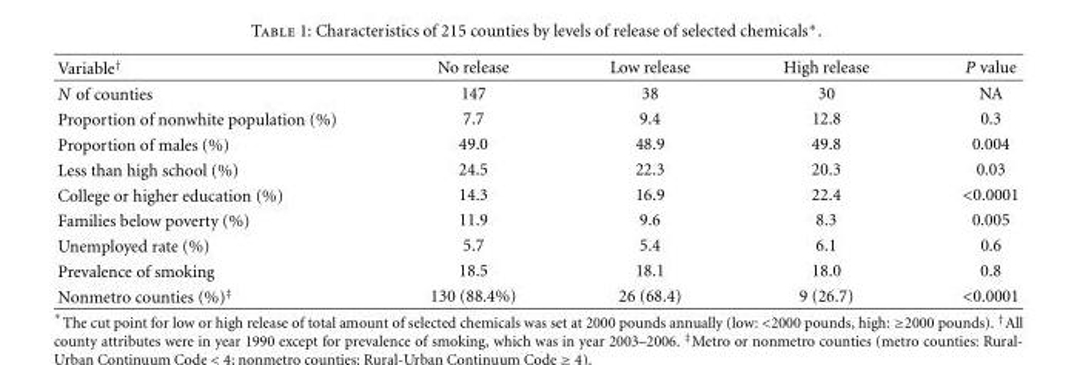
<table><thead><tr><td>Variable<sup>†</sup></td><td>No release</td><td>Low release</td><td>High release</td><td>P value</td></tr></thead><tbody><tr><td>N of counties</td><td>147</td><td>38</td><td>30</td><td>NA</td></tr><tr><td>Proportion of nonwhite population (%)</td><td>7.7</td><td>9.4</td><td>12.8</td><td>0.3</td></tr><tr><td>Proportion of males (%)</td><td>49.0</td><td>48.9</td><td>49.8</td><td>0.004</td></tr><tr><td>Less than high school (%)</td><td>24.5</td><td>22.3</td><td>20.3</td><td>0.03</td></tr><tr><td>College or higher education (%)</td><td>14.3</td><td>16.9</td><td>22.4</td><td>&lt;0.0001</td></tr><tr><td>Families below poverty (%)</td><td>11.9</td><td>9.6</td><td>8.3</td><td>0.005</td></tr><tr><td>Unemployed rate (%)</td><td>5.7</td><td>5.4</td><td>6.1</td><td>0.6</td></tr><tr><td>Prevalence of smoking</td><td>18.5</td><td>18.1</td><td>18.0</td><td>0.8</td></tr><tr><td>Nonmetro counties (%)<sup>‡</sup></td><td>130 (88.4%)</td><td>26 (68.4)</td><td>9 (26.7)</td><td>&lt;0.0001</td></tr></tbody></table>